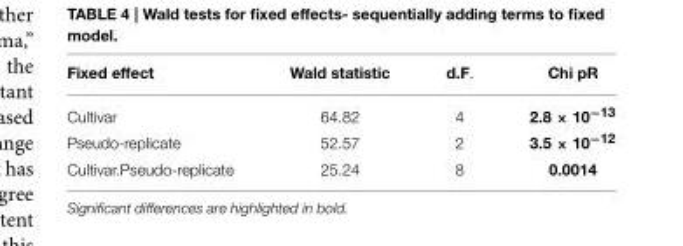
<table><thead><tr><td>Fixed effect</td><td>Wald statistic</td><td>d.F.</td><td>Chi pR</td></tr></thead><tbody><tr><td>Cultivar</td><td>64.82</td><td>4</td><td>2.8 × 10<sup>−13</sup></td></tr><tr><td>Pseudo-replicate</td><td>52.57</td><td>2</td><td>3.5 × 10<sup>−12</sup></td></tr><tr><td>Cultivar.Pseudo-replicate</td><td>25.24</td><td>8</td><td>0.0014</td></tr></tbody></table>